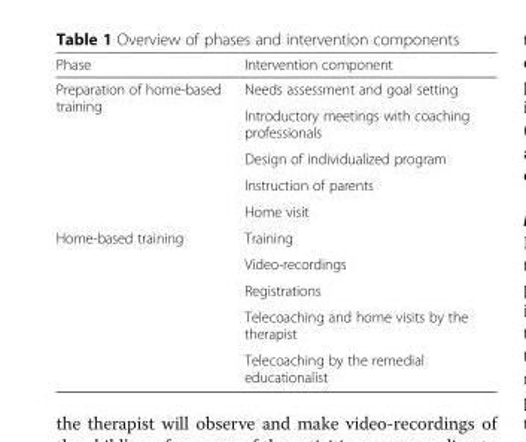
<table><thead><tr><td>Phase</td><td>Intervention component</td></tr></thead><tbody><tr><td rowspan="5">Preparation of home-based training</td><td>Needs assessment and goal setting</td></tr><tr><td>Introductory meetings with coaching professionals</td></tr><tr><td>Design of individualized program</td></tr><tr><td>Instruction of parents</td></tr><tr><td>Home visit</td></tr><tr><td rowspan="5">Home-based training</td><td>Training</td></tr><tr><td>Video-recordings</td></tr><tr><td>Registrations</td></tr><tr><td>Telecoaching and home visits by the therapist</td></tr><tr><td>Telecoaching by the remedial educationalist</td></tr></tbody></table>